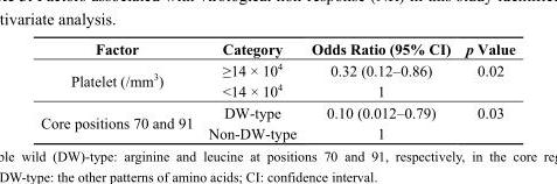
<table><thead><tr><td>Factor</td><td>Category</td><td>Odds Ratio (95% CI)</td><td>p Value</td></tr></thead><tbody><tr><td rowspan="2">Platelet (/mm<sup>3</sup>)</td><td>≥14 × 10<sup>4</sup></td><td>0.32 (0.12–0.86)</td><td>0.02</td></tr><tr><td>&lt;14 × 10<sup>4</sup></td><td>1</td><td></td></tr><tr><td rowspan="2">Core positions 70 and 91</td><td>DW-type</td><td>0.10 (0.012–0.79)</td><td>0.03</td></tr><tr><td>Non-DW-type</td><td>1</td><td></td></tr></tbody></table>